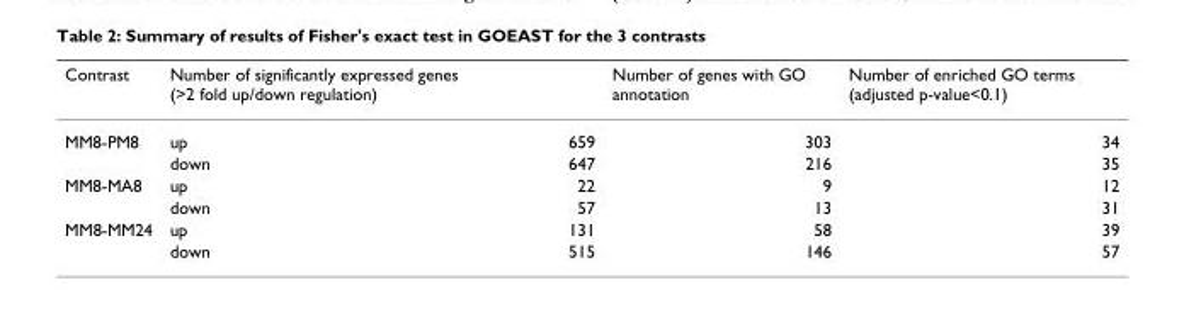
<table><thead><tr><td rowspan="2">Contrast MM8-PM8</td><td colspan="2">Number of significantly expressed genes (&gt;2 fold up/down regulation)</td><td rowspan="2">Number of genes with GO annotation 303</td><td rowspan="2">Number of enriched GO terms (adjusted p-value&lt;0.1) 34</td></tr><tr><td>up</td><td>659</td></tr></thead><tbody><tr><td></td><td>down</td><td>647</td><td>216</td><td>35</td></tr><tr><td rowspan="2">MM8-MA8</td><td>up</td><td>22</td><td>9</td><td>12</td></tr><tr><td>down</td><td>57</td><td>13</td><td>31</td></tr><tr><td rowspan="2">MM8-MM24</td><td>up</td><td>131</td><td>58</td><td>39</td></tr><tr><td>down</td><td>515</td><td>146</td><td>57</td></tr></tbody></table>